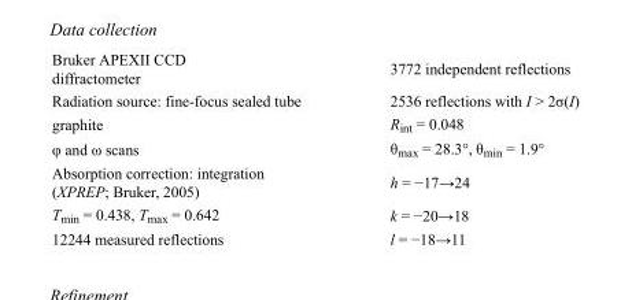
<table><tbody><tr><td>Bruker APEXII CCD diffractometer</td><td>3772 independent reflections</td></tr><tr><td>Radiation source: fine-focus sealed tube</td><td>2536 reflections with I &gt; 2σ(I)</td></tr><tr><td>graphite</td><td>R<sub>int</sub> = 0.048</td></tr><tr><td>φ and ω scans</td><td>θ<sub>max</sub> = 28.3°, θ<sub>min</sub> = 1.9°</td></tr><tr><td>Absorption correction: integration (XPREP; Bruker, 2005)</td><td>h = −17→24</td></tr><tr><td>T<sub>min</sub> = 0.438, T<sub>max</sub> = 0.642</td><td>k = −20→18</td></tr><tr><td>12244 measured reflections</td><td>l = −18→11</td></tr></tbody></table>